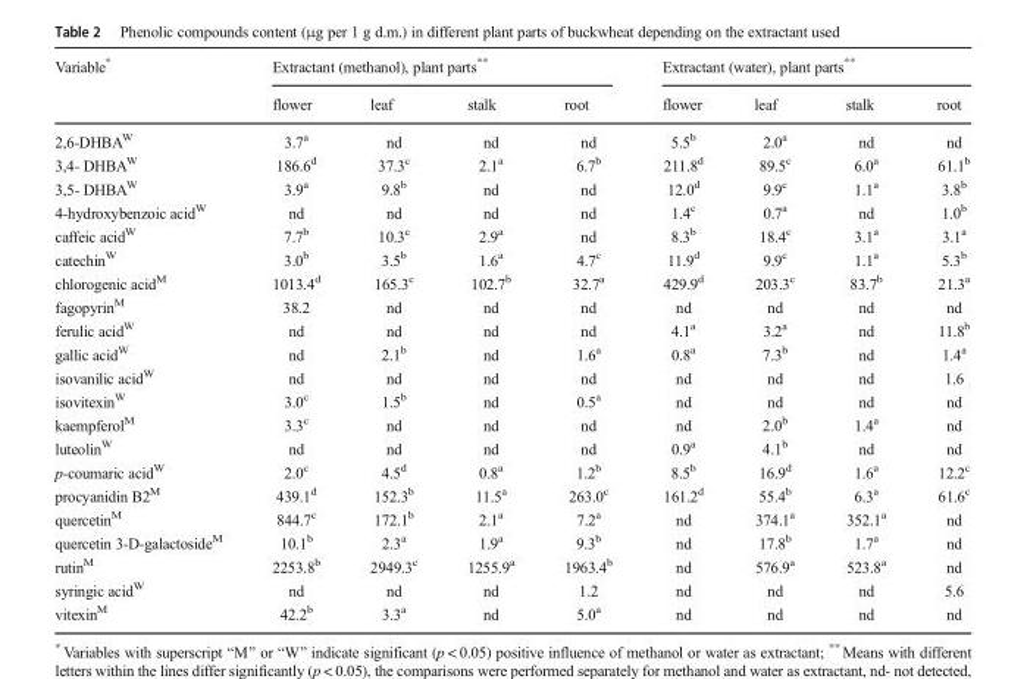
<table><thead><tr><td rowspan="2">Variable*</td><td colspan="4">Extractant (methanol), plant parts**</td><td colspan="4">Extractant (water), plant parts**</td></tr><tr><td>flower</td><td>leaf</td><td>stalk</td><td>root</td><td>flower</td><td>leaf</td><td>stalk</td><td>root</td></tr></thead><tbody><tr><td>2,6-DHBA<sup>W</sup></td><td>3.7<sup>a</sup></td><td>nd</td><td>nd</td><td>nd</td><td>5.5<sup>b</sup></td><td>2.0<sup>a</sup></td><td>nd</td><td>nd</td></tr><tr><td>3,4- DHBA<sup>W</sup></td><td>186.6<sup>d</sup></td><td>37.3<sup>c</sup></td><td>2.1<sup>a</sup></td><td>6.7<sup>b</sup></td><td>211.8<sup>d</sup></td><td>89.5<sup>c</sup></td><td>6.0<sup>a</sup></td><td>61.1<sup>b</sup></td></tr><tr><td>3,5- DHBA<sup>W</sup></td><td>3.9<sup>a</sup></td><td>9.8<sup>b</sup></td><td>nd</td><td>nd</td><td>12.0<sup>d</sup></td><td>9.9<sup>c</sup></td><td>1.1<sup>a</sup></td><td>3.8<sup>b</sup></td></tr><tr><td>4-hydroxybenzoic acid<sup>W</sup></td><td>nd</td><td>nd</td><td>nd</td><td>nd</td><td>1.4<sup>c</sup></td><td>0.7<sup>a</sup></td><td>nd</td><td>1.0<sup>b</sup></td></tr><tr><td>caffeic acid<sup>W</sup></td><td>7.7<sup>b</sup></td><td>10.3<sup>c</sup></td><td>2.9<sup>a</sup></td><td>nd</td><td>8.3<sup>b</sup></td><td>18.4<sup>c</sup></td><td>3.1<sup>a</sup></td><td>3.1<sup>a</sup></td></tr><tr><td>catechin<sup>W</sup></td><td>3.0<sup>b</sup></td><td>3.5<sup>b</sup></td><td>1.6<sup>a</sup></td><td>4.7<sup>c</sup></td><td>11.9<sup>d</sup></td><td>9.9<sup>c</sup></td><td>1.1<sup>a</sup></td><td>5.3<sup>b</sup></td></tr><tr><td>chlorogenic acid<sup>M</sup></td><td>1013.4<sup>d</sup></td><td>165.3<sup>c</sup></td><td>102.7<sup>b</sup></td><td>32.7<sup>a</sup></td><td>429.9<sup>d</sup></td><td>203.3<sup>c</sup></td><td>83.7<sup>b</sup></td><td>21.3<sup>a</sup></td></tr><tr><td>fagopyrin<sup>M</sup></td><td>38.2</td><td>nd</td><td>nd</td><td>nd</td><td>nd</td><td>nd</td><td>nd</td><td>nd</td></tr><tr><td>ferulic acid<sup>W</sup></td><td>nd</td><td>nd</td><td>nd</td><td>nd</td><td>4.1<sup>a</sup></td><td>3.2<sup>a</sup></td><td>nd</td><td>11.8<sup>b</sup></td></tr><tr><td>gallic acid<sup>W</sup></td><td>nd</td><td>2.1<sup>b</sup></td><td>nd</td><td>1.6<sup>a</sup></td><td>0.8<sup>a</sup></td><td>7.3<sup>b</sup></td><td>nd</td><td>1.4<sup>a</sup></td></tr><tr><td>isovanilic acid<sup>W</sup></td><td>nd</td><td>nd</td><td>nd</td><td>nd</td><td>nd</td><td>nd</td><td>nd</td><td>1.6</td></tr><tr><td>isovitexin<sup>W</sup></td><td>3.0<sup>c</sup></td><td>1.5<sup>b</sup></td><td>nd</td><td>0.5<sup>a</sup></td><td>nd</td><td>nd</td><td>nd</td><td>nd</td></tr><tr><td>kaempferol<sup>M</sup></td><td>3.3<sup>c</sup></td><td>nd</td><td>nd</td><td>nd</td><td>nd</td><td>2.0<sup>b</sup></td><td>1.4<sup>a</sup></td><td>nd</td></tr><tr><td>luteolin<sup>W</sup></td><td>nd</td><td>nd</td><td>nd</td><td>nd</td><td>0.9<sup>a</sup></td><td>4.1<sup>b</sup></td><td>nd</td><td>nd</td></tr><tr><td>p-coumaric acid<sup>W</sup></td><td>2.0<sup>c</sup></td><td>4.5<sup>d</sup></td><td>0.8<sup>a</sup></td><td>1.2<sup>b</sup></td><td>8.5<sup>b</sup></td><td>16.9<sup>d</sup></td><td>1.6<sup>a</sup></td><td>12.2<sup>c</sup></td></tr><tr><td>procyanidin B2<sup>M</sup></td><td>439.1<sup>d</sup></td><td>152.3<sup>b</sup></td><td>11.5<sup>a</sup></td><td>263.0<sup>c</sup></td><td>161.2<sup>d</sup></td><td>55.4<sup>b</sup></td><td>6.3<sup>a</sup></td><td>61.6<sup>c</sup></td></tr><tr><td>quercetin<sup>M</sup></td><td>844.7<sup>c</sup></td><td>172.1<sup>b</sup></td><td>2.1<sup>a</sup></td><td>7.2<sup>a</sup></td><td>nd</td><td>374.1<sup>a</sup></td><td>352.1<sup>a</sup></td><td>nd</td></tr><tr><td>quercetin 3-D-galactoside<sup>M</sup></td><td>10.1<sup>b</sup></td><td>2.3<sup>a</sup></td><td>1.9<sup>a</sup></td><td>9.3<sup>b</sup></td><td>nd</td><td>17.8<sup>b</sup></td><td>1.7<sup>a</sup></td><td>nd</td></tr><tr><td>rutin<sup>M</sup></td><td>2253.8<sup>b</sup></td><td>2949.3<sup>c</sup></td><td>1255.9<sup>a</sup></td><td>1963.4<sup>b</sup></td><td>nd</td><td>576.9<sup>a</sup></td><td>523.8<sup>a</sup></td><td>nd</td></tr><tr><td>syringic acid<sup>W</sup></td><td>nd</td><td>nd</td><td>nd</td><td>1.2</td><td>nd</td><td>nd</td><td>nd</td><td>5.6</td></tr><tr><td>vitexin<sup>M</sup></td><td>42.2<sup>b</sup></td><td>3.3<sup>a</sup></td><td>nd</td><td>5.0<sup>a</sup></td><td>nd</td><td>nd</td><td>nd</td><td>nd</td></tr></tbody></table>